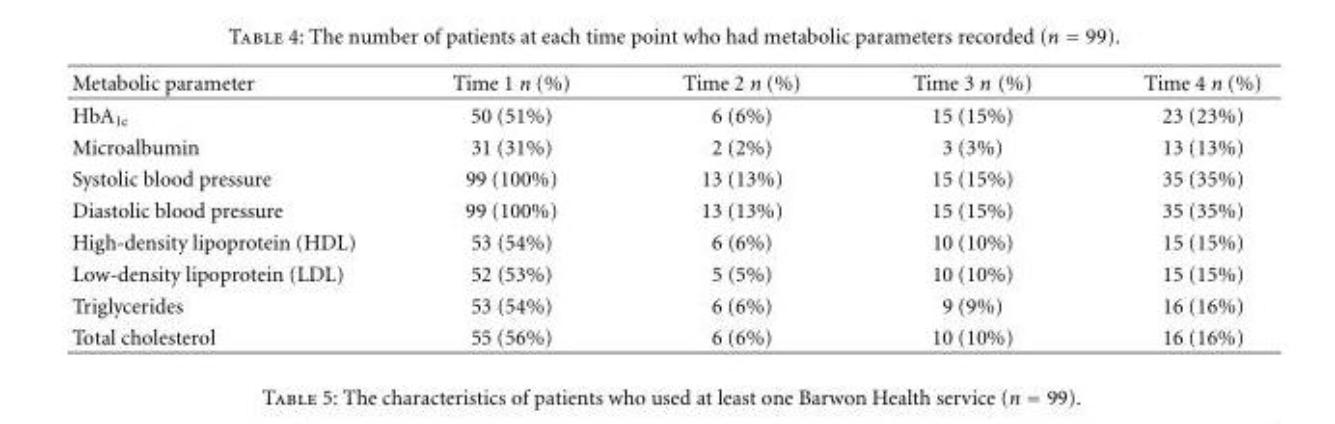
<table><thead><tr><td>Metabolic parameter</td><td>Time 1 n (%)</td><td>Time 2 n (%)</td><td>Time 3 n (%)</td><td>Time 4 n (%)</td></tr></thead><tbody><tr><td>HbA<sub>1c</sub></td><td>50 (51%)</td><td>6 (6%)</td><td>15 (15%)</td><td>23 (23%)</td></tr><tr><td>Microalbumin</td><td>31 (31%)</td><td>2 (2%)</td><td>3 (3%)</td><td>13 (13%)</td></tr><tr><td>Systolic blood pressure</td><td>99 (100%)</td><td>13 (13%)</td><td>15 (15%)</td><td>35 (35%)</td></tr><tr><td>Diastolic blood pressure</td><td>99 (100%)</td><td>13 (13%)</td><td>15 (15%)</td><td>35 (35%)</td></tr><tr><td>High-density lipoprotein (HDL)</td><td>53 (54%)</td><td>6 (6%)</td><td>10 (10%)</td><td>15 (15%)</td></tr><tr><td>Low-density lipoprotein (LDL)</td><td>52 (53%)</td><td>5 (5%)</td><td>10 (10%)</td><td>15 (15%)</td></tr><tr><td>Triglycerides</td><td>53 (54%)</td><td>6 (6%)</td><td>9 (9%)</td><td>16 (16%)</td></tr><tr><td>Total cholesterol</td><td>55 (56%)</td><td>6 (6%)</td><td>10 (10%)</td><td>16 (16%)</td></tr></tbody></table>